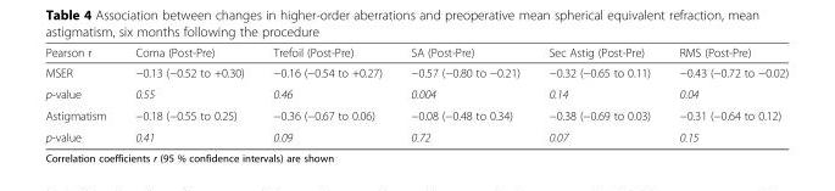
<table><thead><tr><td>Pearson r</td><td>Coma (Post-Pre)</td><td>Trefoil (Post-Pre)</td><td>SA (Post-Pre)</td><td>Sec Astig (Post-Pre)</td><td>RMS (Post-Pre)</td></tr></thead><tbody><tr><td>MSER</td><td>−0.13 (−0.52 to +0.30)</td><td>−0.16 (−0.54 to +0.27)</td><td>−0.57 (−0.80 to −0.21)</td><td>−0.32 (−0.65 to 0.11)</td><td>−0.43 (−0.72 to −0.02)</td></tr><tr><td>p-value</td><td>0.55</td><td>0.46</td><td>0.004</td><td>0.14</td><td>0.04</td></tr><tr><td>Astigmatism</td><td>−0.18 (−0.55 to 0.25)</td><td>−0.36 (−0.67 to 0.06)</td><td>−0.08 (−0.48 to 0.34)</td><td>−0.38 (−0.69 to 0.03)</td><td>−0.31 (−0.64 to 0.12)</td></tr><tr><td>p-value</td><td>0.41</td><td>0.09</td><td>0.72</td><td>0.07</td><td>0.15</td></tr></tbody></table>